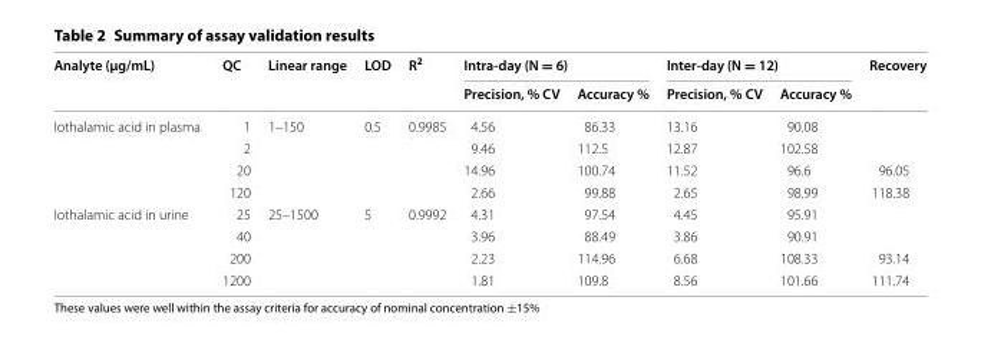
<table><thead><tr><td rowspan="2">Analyte (µg/mL)</td><td rowspan="2">QC</td><td rowspan="2">Linear range</td><td rowspan="2">LOD</td><td rowspan="2">R<sup>2</sup></td><td colspan="2">Intra‑day (N = 6)</td><td colspan="2">Inter‑day (N = 12)</td><td rowspan="2">Recovery</td></tr><tr><td>Precision, % CV</td><td>Accuracy %</td><td>Precision, % CV</td><td>Accuracy %</td></tr></thead><tbody><tr><td rowspan="4">Iothalamic acid in plasma</td><td>1</td><td rowspan="4">1–150</td><td rowspan="4">0.5</td><td rowspan="4">0.9985</td><td>4.56</td><td>86.33</td><td>13.16</td><td>90.08</td><td></td></tr><tr><td>2</td><td>9.46</td><td>112.5</td><td>12.87</td><td>102.58</td><td></td></tr><tr><td>20</td><td>14.96</td><td>100.74</td><td>11.52</td><td>96.6</td><td>96.05</td></tr><tr><td>120</td><td>2.66</td><td>99.88</td><td>2.65</td><td>98.99</td><td>118.38</td></tr><tr><td rowspan="4">Iothalamic acid in urine</td><td>25</td><td rowspan="4">25–1500</td><td rowspan="4">5</td><td rowspan="4">0.9992</td><td>4.31</td><td>97.54</td><td>4.45</td><td>95.91</td><td></td></tr><tr><td>40</td><td>3.96</td><td>88.49</td><td>3.86</td><td>90.91</td><td></td></tr><tr><td>200</td><td>2.23</td><td>114.96</td><td>6.68</td><td>108.33</td><td>93.14</td></tr><tr><td>1200</td><td>1.81</td><td>109.8</td><td>8.56</td><td>101.66</td><td>111.74</td></tr></tbody></table>